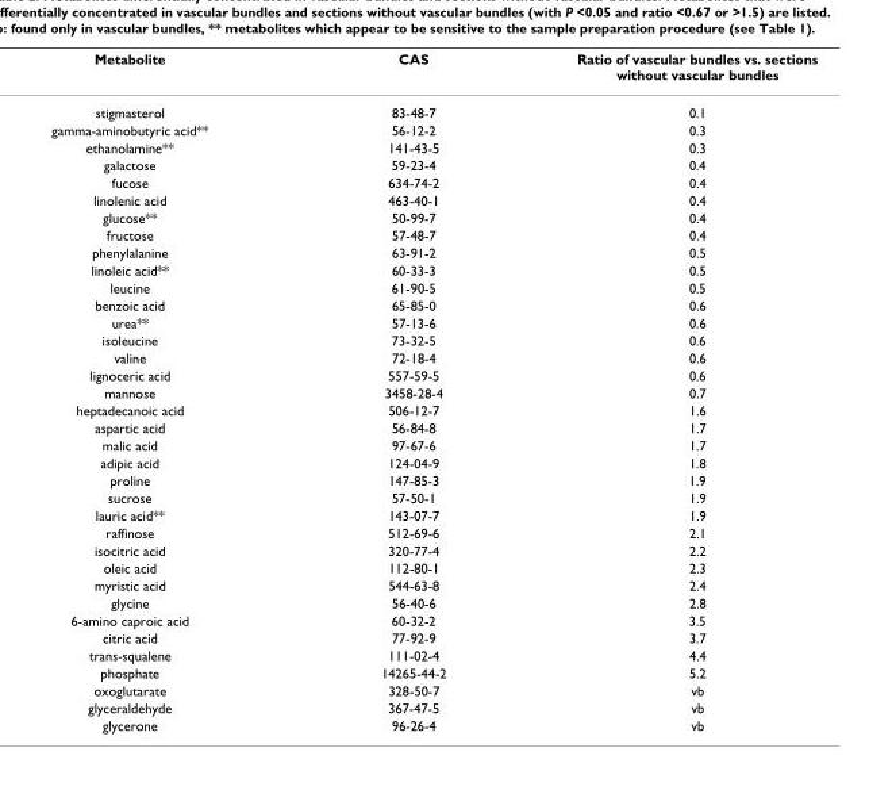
<table><thead><tr><td>Metabolite</td><td>CAS</td><td>Ratio of vascular bundles vs. sections without vascular bundles</td></tr></thead><tbody><tr><td>stigmasterol</td><td>83-48-7</td><td>0.1</td></tr><tr><td>gamma-aminobutyric acid**</td><td>56-12-2</td><td>0.3</td></tr><tr><td>ethanolamine**</td><td>141-43-5</td><td>0.3</td></tr><tr><td>galactose</td><td>59-23-4</td><td>0.4</td></tr><tr><td>fucose</td><td>634-74-2</td><td>0.4</td></tr><tr><td>linolenic acid</td><td>463-40-1</td><td>0.4</td></tr><tr><td>glucose**</td><td>50-99-7</td><td>0.4</td></tr><tr><td>fructose</td><td>57-48-7</td><td>0.4</td></tr><tr><td>phenylalanine</td><td>63-91-2</td><td>0.5</td></tr><tr><td>linoleic acid**</td><td>60-33-3</td><td>0.5</td></tr><tr><td>leucine</td><td>61-90-5</td><td>0.5</td></tr><tr><td>benzoic acid</td><td>65-85-0</td><td>0.6</td></tr><tr><td>urea**</td><td>57-13-6</td><td>0.6</td></tr><tr><td>isoleucine</td><td>73-32-5</td><td>0.6</td></tr><tr><td>valine</td><td>72-18-4</td><td>0.6</td></tr><tr><td>lignoceric acid</td><td>557-59-5</td><td>0.6</td></tr><tr><td>mannose</td><td>3458-28-4</td><td>0.7</td></tr><tr><td>heptadecanoic acid</td><td>506-12-7</td><td>1.6</td></tr><tr><td>aspartic acid</td><td>56-84-8</td><td>1.7</td></tr><tr><td>malic acid</td><td>97-67-6</td><td>1.7</td></tr><tr><td>adipic acid</td><td>124-04-9</td><td>1.8</td></tr><tr><td>proline</td><td>147-85-3</td><td>1.9</td></tr><tr><td>sucrose</td><td>57-50-1</td><td>1.9</td></tr><tr><td>lauric acid**</td><td>143-07-7</td><td>1.9</td></tr><tr><td>raffinose</td><td>512-69-6</td><td>2.1</td></tr><tr><td>isocitric acid</td><td>320-77-4</td><td>2.2</td></tr><tr><td>oleic acid</td><td>112-80-1</td><td>2.3</td></tr><tr><td>myristic acid</td><td>544-63-8</td><td>2.4</td></tr><tr><td>glycine</td><td>56-40-6</td><td>2.8</td></tr><tr><td>6-amino caproic acid</td><td>60-32-2</td><td>3.5</td></tr><tr><td>citric acid</td><td>77-92-9</td><td>3.7</td></tr><tr><td>trans-squalene</td><td>111-02-4</td><td>4.4</td></tr><tr><td>phosphate</td><td>14265-44-2</td><td>5.2</td></tr><tr><td>oxoglutarate</td><td>328-50-7</td><td>vb</td></tr><tr><td>glyceraldehyde</td><td>367-47-5</td><td>vb</td></tr><tr><td>glycerone</td><td>96-26-4</td><td>vb</td></tr></tbody></table>